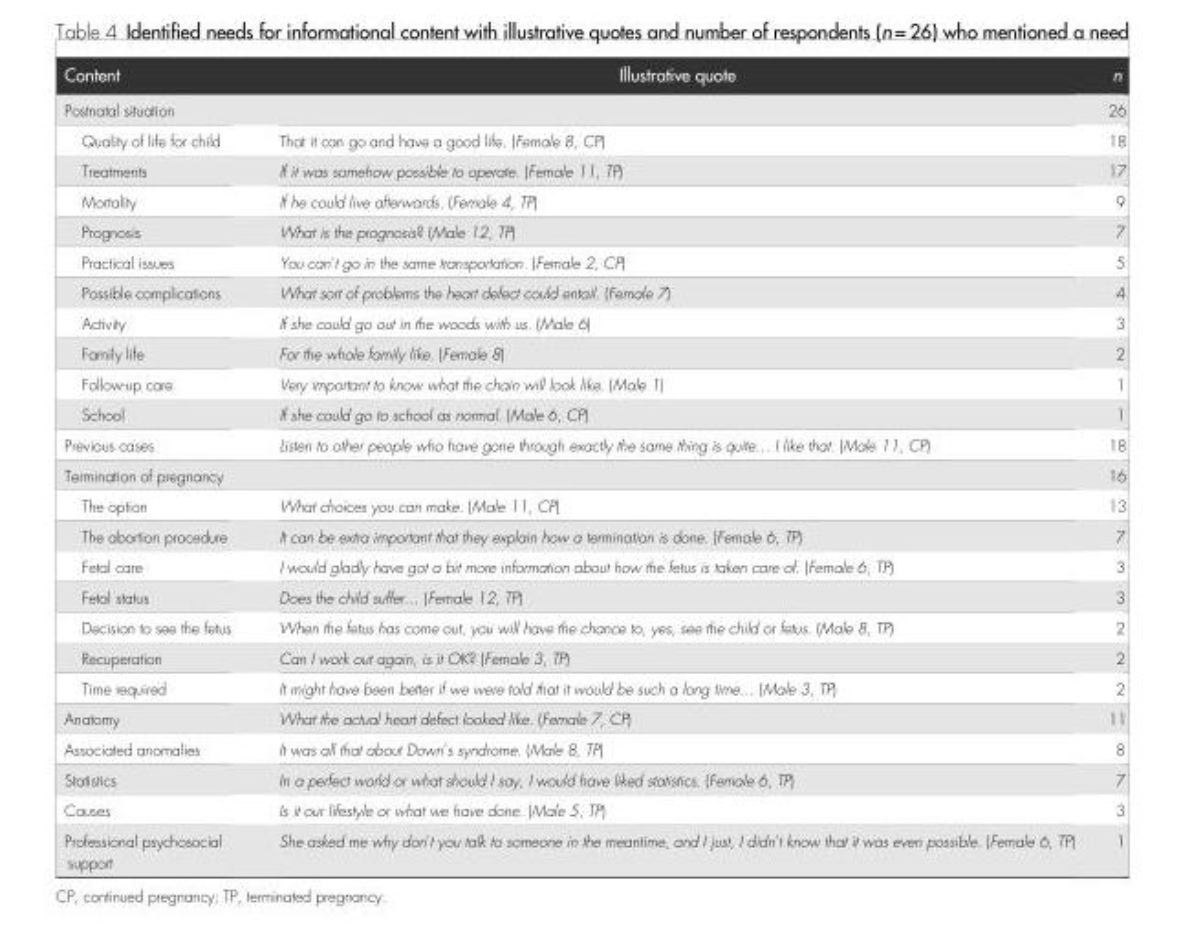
<table><thead><tr><td>Content</td><td>Illustrative quote</td><td>n</td></tr></thead><tbody><tr><td colspan="2">Postnatal situation</td><td>26</td></tr><tr><td>Quality of life for child</td><td>That it can go and have a good life. (Female 8, CP)</td><td>18</td></tr><tr><td>Treatments</td><td>If it was somehow possible to operate. (Female 11, TP)</td><td>17</td></tr><tr><td>Mortality</td><td>If he could live afterwards. (Female 4, TP)</td><td>9</td></tr><tr><td>Prognosis</td><td>What is the prognosis? (Male 12, TP)</td><td>7</td></tr><tr><td>Practical issues</td><td>You can’t go in the same transportation. (Female 2, CP)</td><td>5</td></tr><tr><td>Possible complications</td><td>What sort of problems the heart defect could entail. (Female 7)</td><td>4</td></tr><tr><td>Activity</td><td>If she could go out in the woods with us. (Male 6)</td><td>3</td></tr><tr><td>Family life</td><td>For the whole family like. (Female 8)</td><td>2</td></tr><tr><td>Follow-up care</td><td>Very important to know what the chain will look like. (Male 1)</td><td>1</td></tr><tr><td>School</td><td>If she could go to school as normal. (Male 6, CP)</td><td>1</td></tr><tr><td>Previous cases</td><td>Listen to other people who have gone through exactly the same thing is quite… I like that. (Male 11, CP)</td><td>18</td></tr><tr><td colspan="2">Termination of pregnancy</td><td>16</td></tr><tr><td>The option</td><td>What choices you can make. (Male 11, CP)</td><td>13</td></tr><tr><td>The abortion procedure</td><td>It can be extra important that they explain how a termination is done. (Female 6, TP)</td><td>7</td></tr><tr><td>Fetal care</td><td>I would gladly have got a bit more information about how the fetus is taken care of. (Female 6, TP)</td><td>3</td></tr><tr><td>Fetal status</td><td>Does the child suffer… (Female 12, TP)</td><td>3</td></tr><tr><td>Decision to see the fetus</td><td>When the fetus has come out, you will have the chance to, yes, see the child or fetus. (Male 8, TP)</td><td>2</td></tr><tr><td>Recuperation</td><td>Can I work out again, is it OK? (Female 3, TP)</td><td>2</td></tr><tr><td>Time required</td><td>It might have been better if we were told that it would be such a long time… (Male 3, TP)</td><td>2</td></tr><tr><td>Anatomy</td><td>What the actual heart defect looked like. (Female 7, CP)</td><td>11</td></tr><tr><td>Associated anomalies</td><td>It was all that about Down’s syndrome. (Male 8, TP)</td><td>8</td></tr><tr><td>Statistics</td><td>In a perfect world or what should I say, I would have liked statistics. (Female 6, TP)</td><td>7</td></tr><tr><td>Causes</td><td>Is it our lifestyle or what we have done. (Male 5, TP)</td><td>3</td></tr><tr><td>Professional psychosocial support</td><td>She asked me why don’t you talk to someone in the meantime, and I just, I didn’t know that it was even possible. (Female 6, TP)</td><td>1</td></tr></tbody></table>